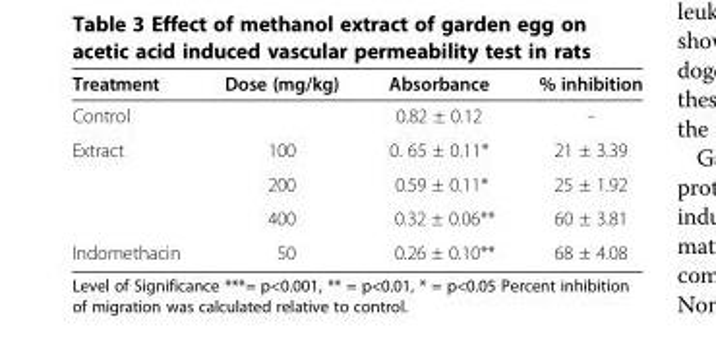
<table><thead><tr><td>Treatment</td><td>Dose (mg/kg)</td><td>Absorbance</td><td>% inhibition</td></tr></thead><tbody><tr><td>Control</td><td></td><td>0.82 ± 0.12</td><td>-</td></tr><tr><td rowspan="3">Extract</td><td>100</td><td>0. 65 ± 0.11*</td><td>21 ± 3.39</td></tr><tr><td>200</td><td>0.59 ± 0.11*</td><td>25 ± 1.92</td></tr><tr><td>400</td><td>0.32 ± 0.06**</td><td>60 ± 3.81</td></tr><tr><td>Indomethacin</td><td>50</td><td>0.26 ± 0.10**</td><td>68 ± 4.08</td></tr></tbody></table>